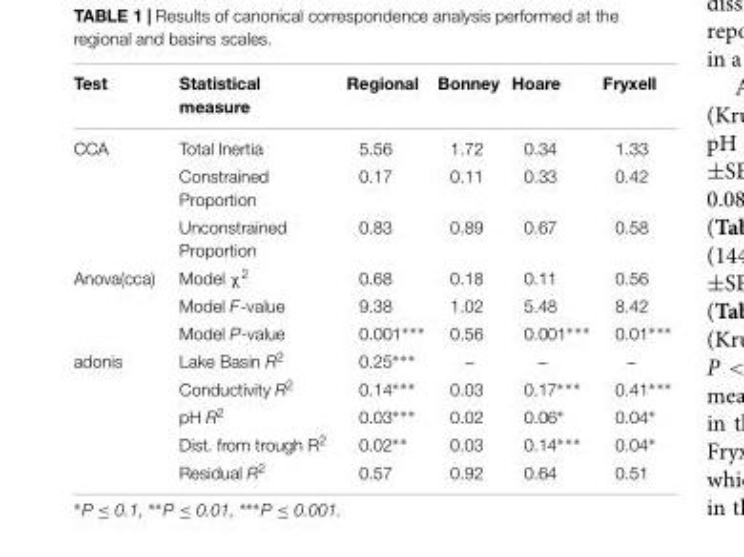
<table><thead><tr><td>Test</td><td>Statistical measure</td><td>Regional</td><td>Bonney</td><td>Hoare</td><td>Fryxell</td></tr></thead><tbody><tr><td rowspan="3">CCA</td><td>Total Inertia</td><td>5.56</td><td>1.72</td><td>0.34</td><td>1.33</td></tr><tr><td>Constrained Proportion</td><td>0.17</td><td>0.11</td><td>0.33</td><td>0.42</td></tr><tr><td>Unconstrained Proportion</td><td>0.83</td><td>0.89</td><td>0.67</td><td>0.58</td></tr><tr><td rowspan="3">Anova(cca)</td><td>Model χ<sup>2</sup></td><td>0.68</td><td>0.18</td><td>0.11</td><td>0.56</td></tr><tr><td>Model F-value</td><td>9.38</td><td>1.02</td><td>5.48</td><td>8.42</td></tr><tr><td>Model P-value</td><td>0.001∗∗∗</td><td>0.56</td><td>0.001∗∗∗</td><td>0.01∗∗∗</td></tr><tr><td rowspan="5">adonis</td><td>Lake Basin R<sup>2</sup></td><td>0.25∗∗∗</td><td>–</td><td>–</td><td>–</td></tr><tr><td>Conductivity R<sup>2</sup></td><td>0.14∗∗∗</td><td>0.03</td><td>0.17∗∗∗</td><td>0.41∗∗∗</td></tr><tr><td>pH R<sup>2</sup></td><td>0.03∗∗∗</td><td>0.02</td><td>0.06∗</td><td>0.04∗</td></tr><tr><td>Dist. from trough R<sup>2</sup></td><td>0.02∗∗</td><td>0.03</td><td>0.14∗∗∗</td><td>0.04∗</td></tr><tr><td>Residual R<sup>2</sup></td><td>0.57</td><td>0.92</td><td>0.64</td><td>0.51</td></tr></tbody></table>